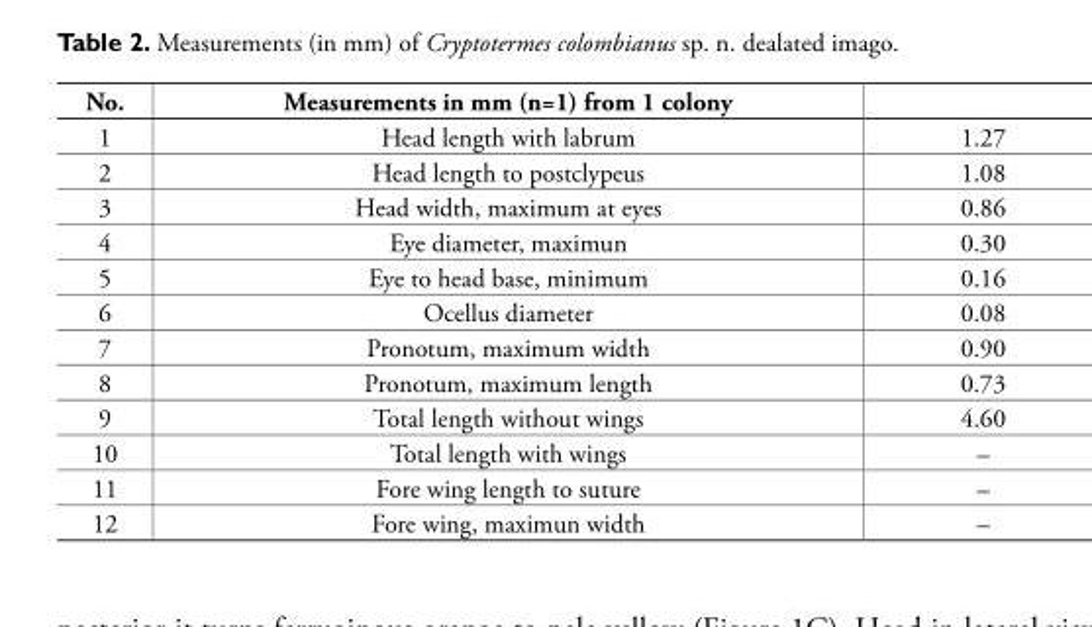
<table><thead><tr><td>No.</td><td>Measurements in mm (n=1) from 1 colony</td><td></td></tr></thead><tbody><tr><td>1</td><td>Head length with labrum</td><td>1.27</td></tr><tr><td>2</td><td>Head length to postclypeus</td><td>1.08</td></tr><tr><td>3</td><td>Head width, maximum at eyes</td><td>0.86</td></tr><tr><td>4</td><td>Eye diameter, maximun</td><td>0.30</td></tr><tr><td>5</td><td>Eye to head base, minimum</td><td>0.16</td></tr><tr><td>6</td><td>Ocellus diameter</td><td>0.08</td></tr><tr><td>7</td><td>Pronotum, maximum width</td><td>0.90</td></tr><tr><td>8</td><td>Pronotum, maximum length</td><td>0.73</td></tr><tr><td>9</td><td>Total length without wings</td><td>4.60</td></tr><tr><td>10</td><td>Total length with wings</td><td>–</td></tr><tr><td>11</td><td>Fore wing length to suture</td><td>–</td></tr><tr><td>12</td><td>Fore wing, maximun width</td><td>–</td></tr></tbody></table>